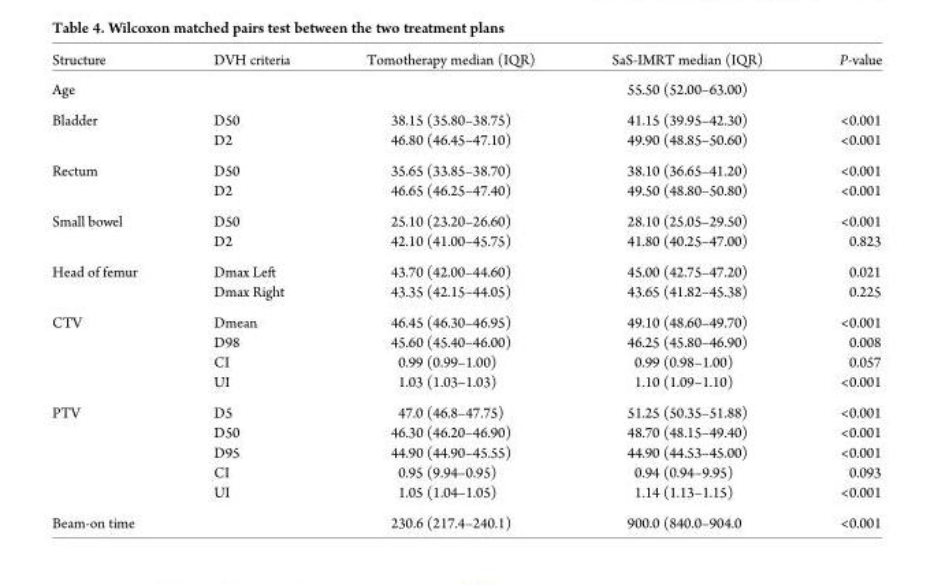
<table><thead><tr><td>Structure</td><td>DVH criteria</td><td>Tomotherapy median (IQR)</td><td>SaS-IMRT median (IQR)</td><td>P-value</td></tr></thead><tbody><tr><td>Age</td><td></td><td></td><td>55.50 (52.00–63.00)</td><td></td></tr><tr><td rowspan="2">Bladder</td><td>D50</td><td>38.15 (35.80–38.75)</td><td>41.15 (39.95–42.30)</td><td>&lt;0.001</td></tr><tr><td>D2</td><td>46.80 (46.45–47.10)</td><td>49.90 (48.85–50.60)</td><td>&lt;0.001</td></tr><tr><td rowspan="2">Rectum</td><td>D50</td><td>35.65 (33.85–38.70)</td><td>38.10 (36.65–41.20)</td><td>&lt;0.001</td></tr><tr><td>D2</td><td>46.65 (46.25–47.40)</td><td>49.50 (48.80–50.80)</td><td>&lt;0.001</td></tr><tr><td rowspan="2">Small bowel</td><td>D50</td><td>25.10 (23.20–26.60)</td><td>28.10 (25.05–29.50)</td><td>&lt;0.001</td></tr><tr><td>D2</td><td>42.10 (41.00–45.75)</td><td>41.80 (40.25–47.00)</td><td>0.823</td></tr><tr><td rowspan="2">Head of femur</td><td>Dmax Left</td><td>43.70 (42.00–44.60)</td><td>45.00 (42.75–47.20)</td><td>0.021</td></tr><tr><td>Dmax Right</td><td>43.35 (42.15–44.05)</td><td>43.65 (41.82–45.38)</td><td>0.225</td></tr><tr><td rowspan="4">CTV</td><td>Dmean</td><td>46.45 (46.30–46.95)</td><td>49.10 (48.60–49.70)</td><td>&lt;0.001</td></tr><tr><td>D98</td><td>45.60 (45.40–46.00)</td><td>46.25 (45.80–46.90)</td><td>0.008</td></tr><tr><td>CI</td><td>0.99 (0.99–1.00)</td><td>0.99 (0.98–1.00)</td><td>0.057</td></tr><tr><td>UI</td><td>1.03 (1.03–1.03)</td><td>1.10 (1.09–1.10)</td><td>&lt;0.001</td></tr><tr><td rowspan="5">PTV</td><td>D5</td><td>47.0 (46.8–47.75)</td><td>51.25 (50.35–51.88)</td><td>&lt;0.001</td></tr><tr><td>D50</td><td>46.30 (46.20–46.90)</td><td>48.70 (48.15–49.40)</td><td>&lt;0.001</td></tr><tr><td>D95</td><td>44.90 (44.90–45.55)</td><td>44.90 (44.53–45.00)</td><td>&lt;0.001</td></tr><tr><td>CI</td><td>0.95 (9.94–0.95)</td><td>0.94 (0.94–9.95)</td><td>0.093</td></tr><tr><td>UI</td><td>1.05 (1.04–1.05)</td><td>1.14 (1.13–1.15)</td><td>&lt;0.001</td></tr><tr><td>Beam-on time</td><td></td><td>230.6 (217.4–240.1)</td><td>900.0 (840.0–904.0</td><td>&lt;0.001</td></tr></tbody></table>